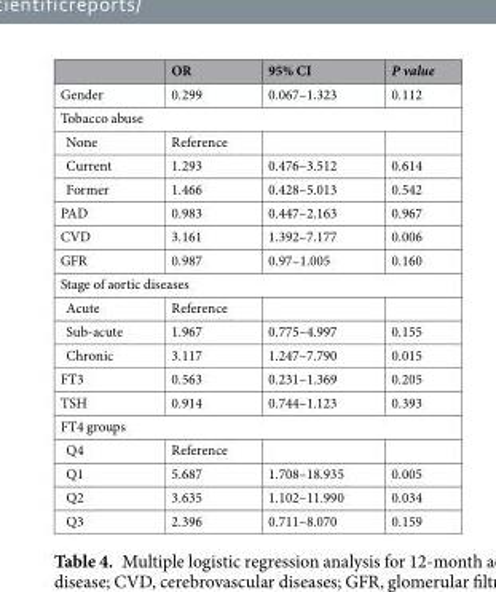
<table><thead><tr><td></td><td>OR</td><td>95% CI</td><td>P value</td></tr></thead><tbody><tr><td>Gender</td><td>0.299</td><td>0.067–1.323</td><td>0.112</td></tr><tr><td colspan="4">Tobacco abuse</td></tr><tr><td>None</td><td>Reference</td><td></td><td></td></tr><tr><td>Current</td><td>1.293</td><td>0.476–3.512</td><td>0.614</td></tr><tr><td>Former</td><td>1.466</td><td>0.428–5.013</td><td>0.542</td></tr><tr><td>PAD</td><td>0.983</td><td>0.447–2.163</td><td>0.967</td></tr><tr><td>CVD</td><td>3.161</td><td>1.392–7.177</td><td>0.006</td></tr><tr><td>GFR</td><td>0.987</td><td>0.97–1.005</td><td>0.160</td></tr><tr><td colspan="4">Stage of aortic diseases</td></tr><tr><td>Acute</td><td>Reference</td><td></td><td></td></tr><tr><td>Sub-acute</td><td>1.967</td><td>0.775–4.997</td><td>0.155</td></tr><tr><td>Chronic</td><td>3.117</td><td>1.247–7.790</td><td>0.015</td></tr><tr><td>FT3</td><td>0.563</td><td>0.231–1.369</td><td>0.205</td></tr><tr><td>TSH</td><td>0.914</td><td>0.744–1.123</td><td>0.393</td></tr><tr><td colspan="4">FT4 groups</td></tr><tr><td>Q4</td><td>Reference</td><td></td><td></td></tr><tr><td>Q1</td><td>5.687</td><td>1.708–18.935</td><td>0.005</td></tr><tr><td>Q2</td><td>3.635</td><td>1.102–11.990</td><td>0.034</td></tr><tr><td>Q3</td><td>2.396</td><td>0.711–8.070</td><td>0.159</td></tr></tbody></table>